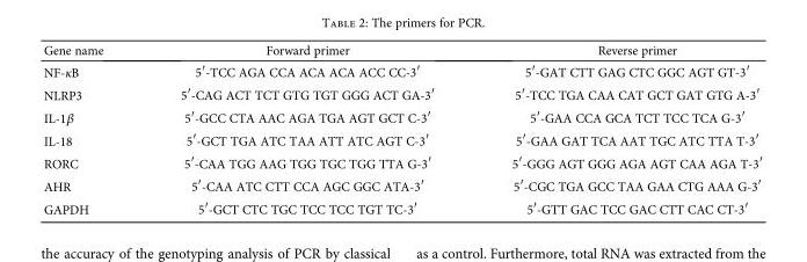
<table><thead><tr><td>Gene name</td><td>Forward primer</td><td>Reverse primer</td></tr></thead><tbody><tr><td>NF-κB</td><td>5′-TCC AGA CCA ACA ACA ACC CC-3′</td><td>5′-GAT CTT GAG CTC GGC AGT GT-3′</td></tr><tr><td>NLRP3</td><td>5′-CAG ACT TCT GTG TGT GGG ACT GA-3′</td><td>5′-TCC TGA CAA CAT GCT GAT GTG A-3′</td></tr><tr><td>IL-1β</td><td>5′-GCC CTA AAC AGA TGA AGT GCT C-3′</td><td>5′-GAA CCA GCA TCT TCC TCA G-3′</td></tr><tr><td>IL-18</td><td>5′-GCT TGA ATC TAA ATT ATC AGT C-3′</td><td>5′-GAA GAT TCA AAT TGC ATC TTA T-3′</td></tr><tr><td>RORC</td><td>5′-CAA TGG AAG TGG TGC TGG TTA G-3′</td><td>5′-GGG AGT GGG AGA AGT CAA AGA T-3′</td></tr><tr><td>AHR</td><td>5′-CAA ATC CTT CCA AGC GGC ATA-3′</td><td>5′-CGC TGA GCC TAA GAA CTG AAA G-3′</td></tr><tr><td>GAPDH</td><td>5′-GCT CTC TGC TCC TCC TGT TC-3′</td><td>5′-GTT GAC TCC GAC CTT CAC CT-3′</td></tr></tbody></table>